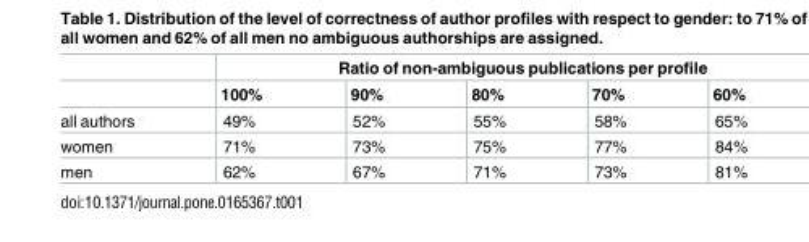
<table><thead><tr><td rowspan="2"></td><td colspan="5">Ratio of non-ambiguous publications per profile</td></tr><tr><td>100%</td><td>90%</td><td>80%</td><td>70%</td><td>60%</td></tr></thead><tbody><tr><td>all authors</td><td>49%</td><td>52%</td><td>55%</td><td>58%</td><td>65%</td></tr><tr><td>women</td><td>71%</td><td>73%</td><td>75%</td><td>77%</td><td>84%</td></tr><tr><td>men</td><td>62%</td><td>67%</td><td>71%</td><td>73%</td><td>81%</td></tr></tbody></table>